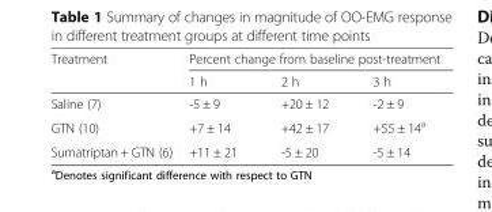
<table><thead><tr><td rowspan="2">Treatment</td><td colspan="3">Percent change from baseline post-treatment</td></tr><tr><td>1 h</td><td>2 h</td><td>3 h</td></tr></thead><tbody><tr><td>Saline (7)</td><td>-5 ± 9</td><td>+20 ± 12</td><td>-2 ± 9</td></tr><tr><td>GTN (10)</td><td>+7 ± 14</td><td>+42 ± 17</td><td>+55 ± 14<sup>a</sup></td></tr><tr><td>Sumatriptan + GTN (6)</td><td>+11 ± 21</td><td>-5 ± 20</td><td>-5 ± 14</td></tr></tbody></table>